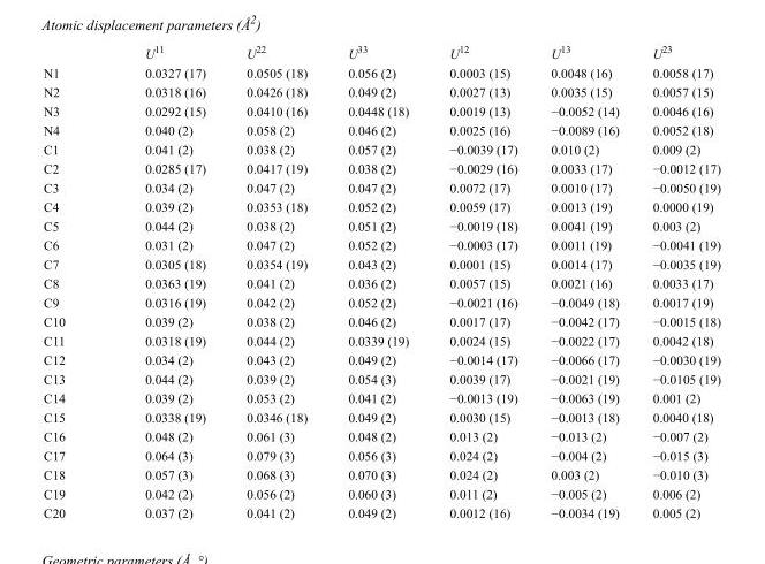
<table><thead><tr><td></td><td>U<sup>11</sup></td><td>U<sup>22</sup></td><td>U<sup>33</sup></td><td>U<sup>12</sup></td><td>U<sup>13</sup></td><td>U<sup>23</sup></td></tr></thead><tbody><tr><td>N1</td><td>0.0327 (17)</td><td>0.0505 (18)</td><td>0.056 (2)</td><td>0.0003 (15)</td><td>0.0048 (16)</td><td>0.0058 (17)</td></tr><tr><td>N2</td><td>0.0318 (16)</td><td>0.0426 (18)</td><td>0.049 (2)</td><td>0.0027 (13)</td><td>0.0035 (15)</td><td>0.0057 (15)</td></tr><tr><td>N3</td><td>0.0292 (15)</td><td>0.0410 (16)</td><td>0.0448 (18)</td><td>0.0019 (13)</td><td>−0.0052 (14)</td><td>0.0046 (16)</td></tr><tr><td>N4</td><td>0.040 (2)</td><td>0.058 (2)</td><td>0.046 (2)</td><td>0.0025 (16)</td><td>−0.0089 (16)</td><td>0.0052 (18)</td></tr><tr><td>C1</td><td>0.041 (2)</td><td>0.038 (2)</td><td>0.057 (2)</td><td>−0.0039 (17)</td><td>0.010 (2)</td><td>0.009 (2)</td></tr><tr><td>C2</td><td>0.0285 (17)</td><td>0.0417 (19)</td><td>0.038 (2)</td><td>−0.0029 (16)</td><td>0.0033 (17)</td><td>−0.0012 (17)</td></tr><tr><td>C3</td><td>0.034 (2)</td><td>0.047 (2)</td><td>0.047 (2)</td><td>0.0072 (17)</td><td>0.0010 (17)</td><td>−0.0050 (19)</td></tr><tr><td>C4</td><td>0.039 (2)</td><td>0.0353 (18)</td><td>0.052 (2)</td><td>0.0059 (17)</td><td>0.0013 (19)</td><td>0.0000 (19)</td></tr><tr><td>C5</td><td>0.044 (2)</td><td>0.038 (2)</td><td>0.051 (2)</td><td>−0.0019 (18)</td><td>0.0041 (19)</td><td>0.003 (2)</td></tr><tr><td>C6</td><td>0.031 (2)</td><td>0.047 (2)</td><td>0.052 (2)</td><td>−0.0003 (17)</td><td>0.0011 (19)</td><td>−0.0041 (19)</td></tr><tr><td>C7</td><td>0.0305 (18)</td><td>0.0354 (19)</td><td>0.043 (2)</td><td>0.0001 (15)</td><td>0.0014 (17)</td><td>−0.0035 (19)</td></tr><tr><td>C8</td><td>0.0363 (19)</td><td>0.041 (2)</td><td>0.036 (2)</td><td>0.0057 (15)</td><td>0.0021 (16)</td><td>0.0033 (17)</td></tr><tr><td>C9</td><td>0.0316 (19)</td><td>0.042 (2)</td><td>0.052 (2)</td><td>−0.0021 (16)</td><td>−0.0049 (18)</td><td>0.0017 (19)</td></tr><tr><td>C10</td><td>0.039 (2)</td><td>0.038 (2)</td><td>0.046 (2)</td><td>0.0017 (17)</td><td>−0.0042 (17)</td><td>−0.0015 (18)</td></tr><tr><td>C11</td><td>0.0318 (19)</td><td>0.044 (2)</td><td>0.0339 (19)</td><td>0.0024 (15)</td><td>−0.0022 (17)</td><td>0.0042 (18)</td></tr><tr><td>C12</td><td>0.034 (2)</td><td>0.043 (2)</td><td>0.049 (2)</td><td>−0.0014 (17)</td><td>−0.0066 (17)</td><td>−0.0030 (19)</td></tr><tr><td>C13</td><td>0.044 (2)</td><td>0.039 (2)</td><td>0.054 (3)</td><td>0.0039 (17)</td><td>−0.0021 (19)</td><td>−0.0105 (19)</td></tr><tr><td>C14</td><td>0.039 (2)</td><td>0.053 (2)</td><td>0.041 (2)</td><td>−0.0013 (19)</td><td>−0.0063 (19)</td><td>0.001 (2)</td></tr><tr><td>C15</td><td>0.0338 (19)</td><td>0.0346 (18)</td><td>0.049 (2)</td><td>0.0030 (15)</td><td>−0.0013 (18)</td><td>0.0040 (18)</td></tr><tr><td>C16</td><td>0.048 (2)</td><td>0.061 (3)</td><td>0.048 (2)</td><td>0.013 (2)</td><td>−0.013 (2)</td><td>−0.007 (2)</td></tr><tr><td>C17</td><td>0.064 (3)</td><td>0.079 (3)</td><td>0.056 (3)</td><td>0.024 (2)</td><td>−0.004 (2)</td><td>−0.015 (3)</td></tr><tr><td>C18</td><td>0.057 (3)</td><td>0.068 (3)</td><td>0.070 (3)</td><td>0.024 (2)</td><td>0.003 (2)</td><td>−0.010 (3)</td></tr><tr><td>C19</td><td>0.042 (2)</td><td>0.056 (2)</td><td>0.060 (3)</td><td>0.011 (2)</td><td>−0.005 (2)</td><td>0.006 (2)</td></tr><tr><td>C20</td><td>0.037 (2)</td><td>0.041 (2)</td><td>0.049 (2)</td><td>0.0012 (16)</td><td>−0.0034 (19)</td><td>0.005 (2)</td></tr></tbody></table>